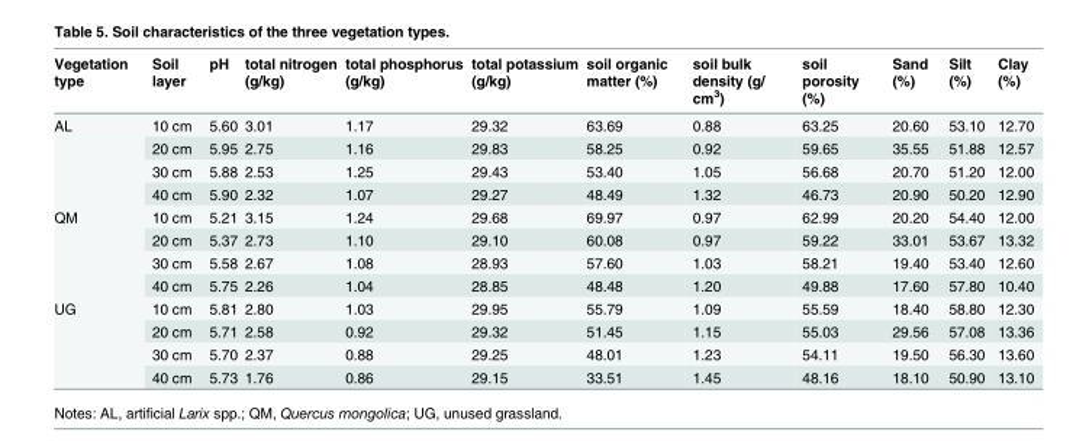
<table><thead><tr><td>Vegetation type</td><td>Soil layer</td><td>pH</td><td>total nitrogen (g/kg)</td><td>total phosphorus (g/kg)</td><td>total potassium (g/kg)</td><td>soil organic matter (%)</td><td>soil bulk density (g/ cm<sup>3</sup>)</td><td>soil porosity (%)</td><td>Sand (%)</td><td>Silt (%)</td><td>Clay (%)</td></tr></thead><tbody><tr><td rowspan="4">AL</td><td>10 cm</td><td>5.60</td><td>3.01</td><td>1.17</td><td>29.32</td><td>63.69</td><td>0.88</td><td>63.25</td><td>20.60</td><td>53.10</td><td>12.70</td></tr><tr><td>20 cm</td><td>5.95</td><td>2.75</td><td>1.16</td><td>29.83</td><td>58.25</td><td>0.92</td><td>59.65</td><td>35.55</td><td>51.88</td><td>12.57</td></tr><tr><td>30 cm</td><td>5.88</td><td>2.53</td><td>1.25</td><td>29.43</td><td>53.40</td><td>1.05</td><td>56.68</td><td>20.70</td><td>51.20</td><td>12.00</td></tr><tr><td>40 cm</td><td>5.90</td><td>2.32</td><td>1.07</td><td>29.27</td><td>48.49</td><td>1.32</td><td>46.73</td><td>20.90</td><td>50.20</td><td>12.90</td></tr><tr><td rowspan="4">QM</td><td>10 cm</td><td>5.21</td><td>3.15</td><td>1.24</td><td>29.68</td><td>69.97</td><td>0.97</td><td>62.99</td><td>20.20</td><td>54.40</td><td>12.00</td></tr><tr><td>20 cm</td><td>5.37</td><td>2.73</td><td>1.10</td><td>29.10</td><td>60.08</td><td>0.97</td><td>59.22</td><td>33.01</td><td>53.67</td><td>13.32</td></tr><tr><td>30 cm</td><td>5.58</td><td>2.67</td><td>1.08</td><td>28.93</td><td>57.60</td><td>1.03</td><td>58.21</td><td>19.40</td><td>53.40</td><td>12.60</td></tr><tr><td>40 cm</td><td>5.75</td><td>2.26</td><td>1.04</td><td>28.85</td><td>48.48</td><td>1.20</td><td>49.88</td><td>17.60</td><td>57.80</td><td>10.40</td></tr><tr><td rowspan="4">UG</td><td>10 cm</td><td>5.81</td><td>2.80</td><td>1.03</td><td>29.95</td><td>55.79</td><td>1.09</td><td>55.59</td><td>18.40</td><td>58.80</td><td>12.30</td></tr><tr><td>20 cm</td><td>5.71</td><td>2.58</td><td>0.92</td><td>29.32</td><td>51.45</td><td>1.15</td><td>55.03</td><td>29.56</td><td>57.08</td><td>13.36</td></tr><tr><td>30 cm</td><td>5.70</td><td>2.37</td><td>0.88</td><td>29.25</td><td>48.01</td><td>1.23</td><td>54.11</td><td>19.50</td><td>56.30</td><td>13.60</td></tr><tr><td>40 cm</td><td>5.73</td><td>1.76</td><td>0.86</td><td>29.15</td><td>33.51</td><td>1.45</td><td>48.16</td><td>18.10</td><td>50.90</td><td>13.10</td></tr></tbody></table>